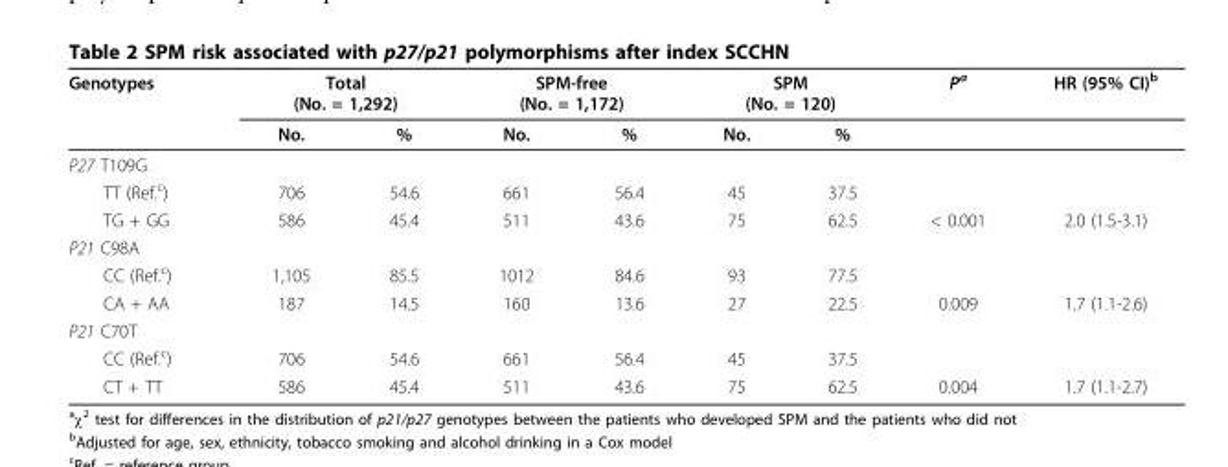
<table><thead><tr><td rowspan="2">Genotypes</td><td colspan="2">Total (No. = 1,292)</td><td colspan="2">SPM-free (No. = 1,172)</td><td colspan="2">SPM (No. = 120)</td><td rowspan="2">P<sup>a</sup></td><td rowspan="2">HR (95% CI)<sup>b</sup></td></tr><tr><td>No.</td><td>%</td><td>No.</td><td>%</td><td>No.</td><td>%</td></tr></thead><tbody><tr><td colspan="9">P27 T109G</td></tr><tr><td>TT (Ref.<sup>c</sup>)</td><td>706</td><td>54.6</td><td>661</td><td>56.4</td><td>45</td><td>37.5</td><td></td><td></td></tr><tr><td>TG + GG</td><td>586</td><td>45.4</td><td>511</td><td>43.6</td><td>75</td><td>62.5</td><td>&lt; 0.001</td><td>2.0 (1.5-3.1)</td></tr><tr><td colspan="9">P21 C98A</td></tr><tr><td>CC (Ref.<sup>c</sup>)</td><td>1,105</td><td>85.5</td><td>1012</td><td>84.6</td><td>93</td><td>77.5</td><td></td><td></td></tr><tr><td>CA + AA</td><td>187</td><td>14.5</td><td>160</td><td>13.6</td><td>27</td><td>22.5</td><td>0.009</td><td>1.7 (1.1-2.6)</td></tr><tr><td colspan="9">P21 C70T</td></tr><tr><td>CC (Ref.<sup>c</sup>)</td><td>706</td><td>54.6</td><td>661</td><td>56.4</td><td>45</td><td>37.5</td><td></td><td></td></tr><tr><td>CT + TT</td><td>586</td><td>45.4</td><td>511</td><td>43.6</td><td>75</td><td>62.5</td><td>0.004</td><td>1.7 (1.1-2.7)</td></tr></tbody></table>